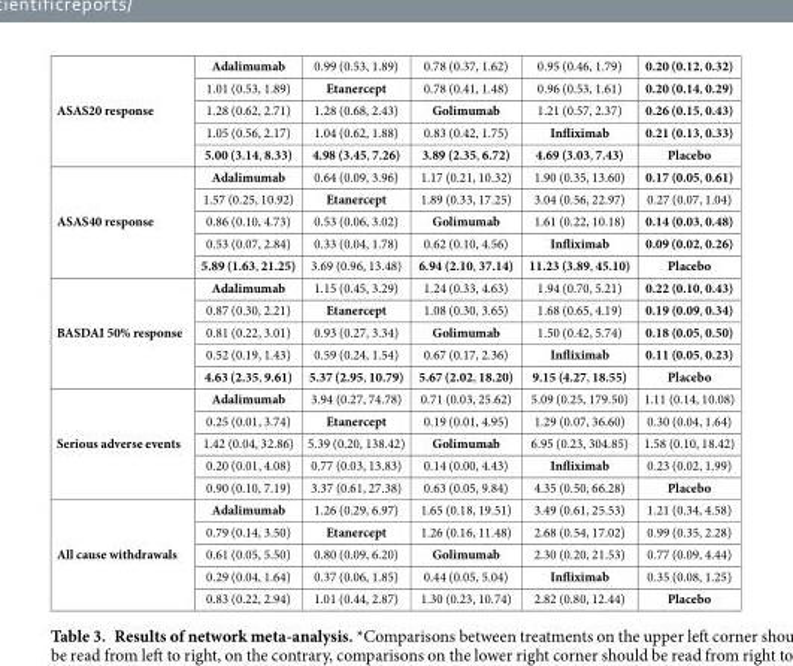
<table><tbody><tr><td rowspan="5">ASAS20 response</td><td>Adalimumab</td><td>0.99 (0.53, 1.89)</td><td>0.78 (0.37, 1.62)</td><td>0.95 (0.46, 1.79)</td><td>0.20 (0.12, 0.32)</td></tr><tr><td>1.01 (0.53, 1.89)</td><td>Etanercept</td><td>0.78 (0.41, 1.48)</td><td>0.96 (0.53, 1.61)</td><td>0.20 (0.14, 0.29)</td></tr><tr><td>1.28 (0.62, 2.71)</td><td>1.28 (0.68, 2.43)</td><td>Golimumab</td><td>1.21 (0.57, 2.37)</td><td>0.26 (0.15, 0.43)</td></tr><tr><td>1.05 (0.56, 2.17)</td><td>1.04 (0.62, 1.88)</td><td>0.83 (0.42, 1.75)</td><td>Infliximab</td><td>0.21 (0.13, 0.33)</td></tr><tr><td>5.00 (3.14, 8.33)</td><td>4.98 (3.45, 7.26)</td><td>3.89 (2.35, 6.72)</td><td>4.69 (3.03, 7.43)</td><td>Placebo</td></tr><tr><td rowspan="5">ASAS40 response</td><td>Adalimumab</td><td>0.64 (0.09, 3.96)</td><td>1.17 (0.21, 10.32)</td><td>1.90 (0.35, 13.60)</td><td>0.17 (0.05, 0.61)</td></tr><tr><td>1.57 (0.25, 10.92)</td><td>Etanercept</td><td>1.89 (0.33, 17.25)</td><td>3.04 (0.56, 22.97)</td><td>0.27 (0.07, 1.04)</td></tr><tr><td>0.86 (0.10, 4.73)</td><td>0.53 (0.06, 3.02)</td><td>Golimumab</td><td>1.61 (0.22, 10.18)</td><td>0.14 (0.03, 0.48)</td></tr><tr><td>0.53 (0.07, 2.84)</td><td>0.33 (0.04, 1.78)</td><td>0.62 (0.10, 4.56)</td><td>Infliximab</td><td>0.09 (0.02, 0.26)</td></tr><tr><td>5.89 (1.63, 21.25)</td><td>3.69 (0.96, 13.48)</td><td>6.94 (2.10, 37.14)</td><td>11.23 (3.89, 45.10)</td><td>Placebo</td></tr><tr><td rowspan="5">BASDAI 50% response</td><td>Adalimumab</td><td>1.15 (0.45, 3.29)</td><td>1.24 (0.33, 4.63)</td><td>1.94 (0.70, 5.21)</td><td>0.22 (0.10, 0.43)</td></tr><tr><td>0.87 (0.30, 2.21)</td><td>Etanercept</td><td>1.08 (0.30, 3.65)</td><td>1.68 (0.65, 4.19)</td><td>0.19 (0.09, 0.34)</td></tr><tr><td>0.81 (0.22, 3.01)</td><td>0.93 (0.27, 3.34)</td><td>Golimumab</td><td>1.50 (0.42, 5.74)</td><td>0.18 (0.05, 0.50)</td></tr><tr><td>0.52 (0.19, 1.43)</td><td>0.59 (0.24, 1.54)</td><td>0.67 (0.17, 2.36)</td><td>Infliximab</td><td>0.11 (0.05, 0.23)</td></tr><tr><td>4.63 (2.35, 9.61)</td><td>5.37 (2.95, 10.79)</td><td>5.67 (2.02, 18.20)</td><td>9.15 (4.27, 18.55)</td><td>Placebo</td></tr><tr><td rowspan="5">Serious adverse events</td><td>Adalimumab</td><td>3.94 (0.27, 74.78)</td><td>0.71 (0.03, 25.62)</td><td>5.09 (0.25, 179.50)</td><td>1.11 (0.14, 10.08)</td></tr><tr><td>0.25 (0.01, 3.74)</td><td>Etanercept</td><td>0.19 (0.01, 4.95)</td><td>1.29 (0.07, 36.60)</td><td>0.30 (0.04, 1.64)</td></tr><tr><td>1.42 (0.04, 32.86)</td><td>5.39 (0.20, 138.42)</td><td>Golimumab</td><td>6.95 (0.23, 304.85)</td><td>1.58 (0.10, 18.42)</td></tr><tr><td>0.20 (0.01, 4.08)</td><td>0.77 (0.03, 13.83)</td><td>0.14 (0.00, 4.43)</td><td>Infliximab</td><td>0.23 (0.02, 1.99)</td></tr><tr><td>0.90 (0.10, 7.19)</td><td>3.37 (0.61, 27.38)</td><td>0.63 (0.05, 9.84)</td><td>4.35 (0.50, 66.28)</td><td>Placebo</td></tr><tr><td rowspan="5">All cause withdrawals</td><td>Adalimumab</td><td>1.26 (0.29, 6.97)</td><td>1.65 (0.18, 19.51)</td><td>3.49 (0.61, 25.53)</td><td>1.21 (0.34, 4.58)</td></tr><tr><td>0.79 (0.14, 3.50)</td><td>Etanercept</td><td>1.26 (0.16, 11.48)</td><td>2.68 (0.54, 17.02)</td><td>0.99 (0.35, 2.28)</td></tr><tr><td>0.61 (0.05, 5.50)</td><td>0.80 (0.09, 6.20)</td><td>Golimumab</td><td>2.30 (0.20, 21.53)</td><td>0.77 (0.09, 4.44)</td></tr><tr><td>0.29 (0.04, 1.64)</td><td>0.37 (0.06, 1.85)</td><td>0.44 (0.05, 5.04)</td><td>Infliximab</td><td>0.35 (0.08, 1.25)</td></tr><tr><td>0.83 (0.22, 2.94)</td><td>1.01 (0.44, 2.87)</td><td>1.30 (0.23, 10.74)</td><td>2.82 (0.80, 12.44)</td><td>Placebo</td></tr></tbody></table>